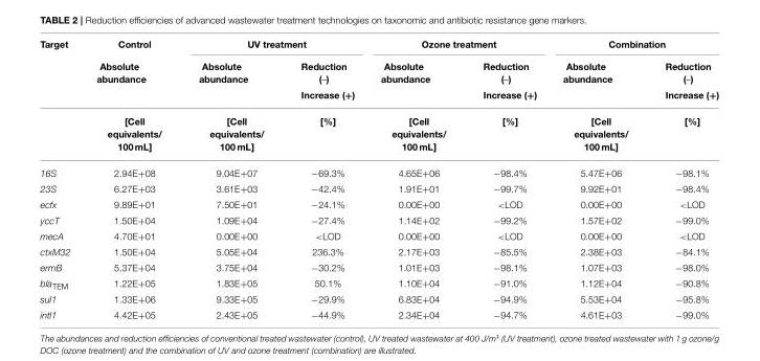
<table><thead><tr><td rowspan="3">Target</td><td rowspan="3">Control Absolute abundance</td><td colspan="2">UV treatment</td><td colspan="2">Ozone treatment</td><td colspan="2">Combination</td></tr><tr><td rowspan="2">Absolute abundance</td><td rowspan="2">Reduction (–) Increase (+)</td><td rowspan="2">Absolute abundance</td><td rowspan="2">Reduction (–) Increase (+)</td><td rowspan="2">Absolute abundance</td><td rowspan="2">Reduction (–) Increase (+)</td></tr><tr></tr></thead><tbody><tr><td></td><td>[Cell equivalents/ 100 mL]</td><td>[Cell equivalents/ 100 mL]</td><td>[%]</td><td>[Cell equivalents/ 100 mL]</td><td>[%]</td><td>[Cell equivalents/ 100 mL]</td><td>[%]</td></tr><tr><td>16S</td><td>2.94E+08</td><td>9.04E+07</td><td>−69.3%</td><td>4.65E+06</td><td>−98.4%</td><td>5.47E+06</td><td>−98.1%</td></tr><tr><td>23S</td><td>6.27E+03</td><td>3.61E+03</td><td>−42.4%</td><td>1.91E+01</td><td>−99.7%</td><td>9.92E+01</td><td>−98.4%</td></tr><tr><td>ecfx</td><td>9.89E+01</td><td>7.50E+01</td><td>−24.1%</td><td>0.00E+00</td><td>&lt;LOD</td><td>0.00E+00</td><td>&lt;LOD</td></tr><tr><td>yccT</td><td>1.50E+04</td><td>1.09E+04</td><td>−27.4%</td><td>1.14E+02</td><td>−99.2%</td><td>1.57E+02</td><td>−99.0%</td></tr><tr><td>mecA</td><td>4.70E+01</td><td>0.00E+00</td><td>&lt;LOD</td><td>0.00E+00</td><td>&lt;LOD</td><td>0.00E+00</td><td>&lt;LOD</td></tr><tr><td>ctxM32</td><td>1.50E+04</td><td>5.05E+04</td><td>236.3%</td><td>2.17E+03</td><td>−85.5%</td><td>2.38E+03</td><td>−84.1%</td></tr><tr><td>ermB</td><td>5.37E+04</td><td>3.75E+04</td><td>−30.2%</td><td>1.01E+03</td><td>−98.1%</td><td>1.07E+03</td><td>−98.0%</td></tr><tr><td>bla<sub>TEM</sub></td><td>1.22E+05</td><td>1.83E+05</td><td>50.1%</td><td>1.10E+04</td><td>−91.0%</td><td>1.12E+04</td><td>−90.8%</td></tr><tr><td>sul1</td><td>1.33E+06</td><td>9.33E+05</td><td>−29.9%</td><td>6.83E+04</td><td>−94.9%</td><td>5.53E+04</td><td>−95.8%</td></tr><tr><td>intl1</td><td>4.42E+05</td><td>2.43E+05</td><td>−44.9%</td><td>2.34E+04</td><td>−94.7%</td><td>4.61E+03</td><td>−99.0%</td></tr></tbody></table>